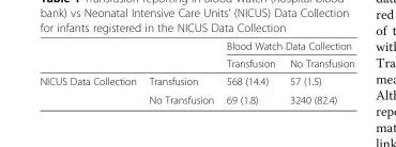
<table><thead><tr><td rowspan="2"></td><td rowspan="2"></td><td colspan="2">Blood Watch Data Collection</td></tr><tr><td>Transfusion</td><td>No Transfusion</td></tr></thead><tbody><tr><td rowspan="2">NICUS Data Collection</td><td>Transfusion</td><td>568 (14.4)</td><td>57 (1.5)</td></tr><tr><td>No Transfusion</td><td>69 (1.8)</td><td>3240 (82.4)</td></tr></tbody></table>